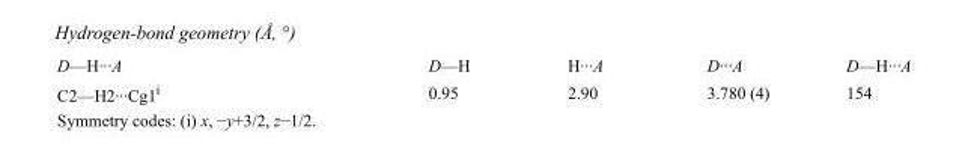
<table><tbody><tr><td>D—H···A</td><td>D—H</td><td>H···A</td><td>D···A</td><td>D—H···A</td></tr><tr><td>C2—H2···Cg1<sup>i</sup></td><td>0.95</td><td>2.90</td><td>3.780 (4)</td><td>154</td></tr></tbody></table>